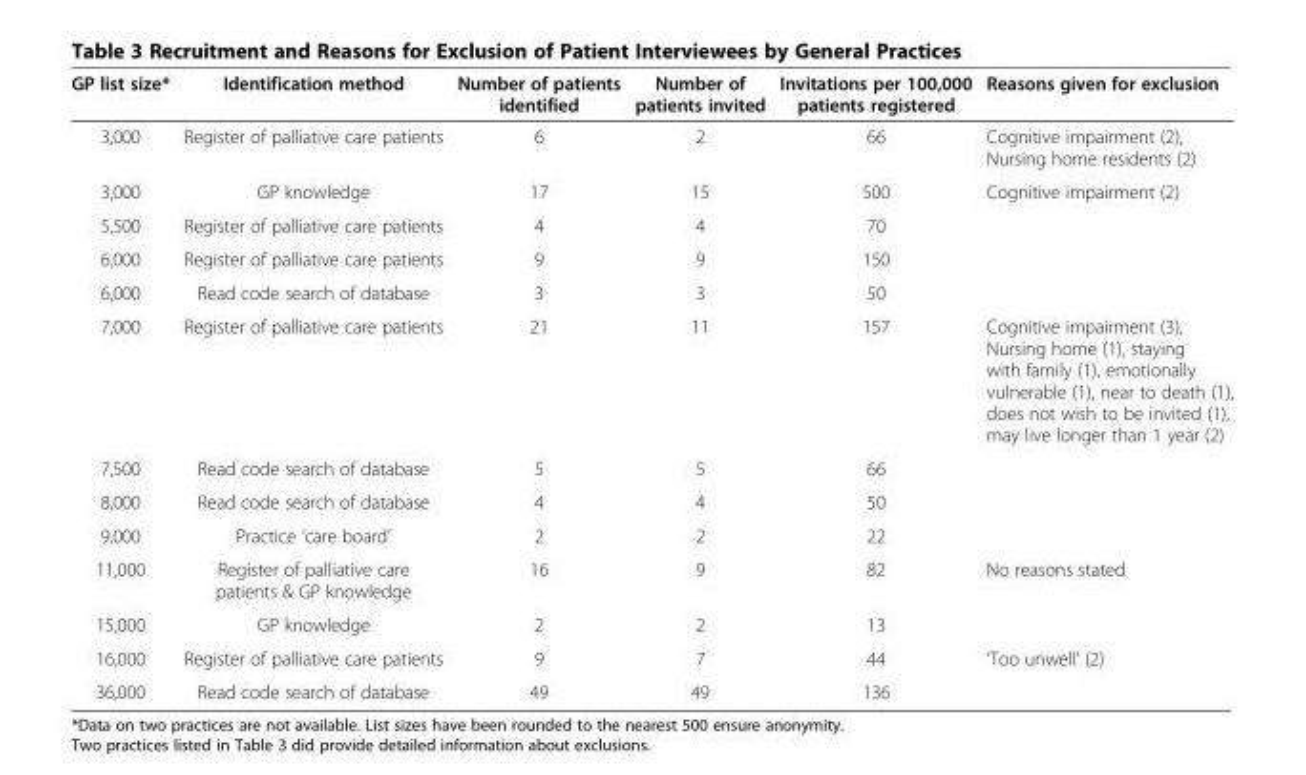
<table><thead><tr><td>GP list size*</td><td>Identification method</td><td>Number of patients identified</td><td>Number of patients invited</td><td>Invitations per 100,000 patients registered</td><td>Reasons given for exclusion</td></tr></thead><tbody><tr><td>3,000</td><td>Register of palliative care patients</td><td>6</td><td>2</td><td>66</td><td>Cognitive impairment (2), Nursing home residents (2)</td></tr><tr><td>3,000</td><td>GP knowledge</td><td>17</td><td>15</td><td>500</td><td>Cognitive impairment (2)</td></tr><tr><td>5,500</td><td>Register of palliative care patients</td><td>4</td><td>4</td><td>70</td><td></td></tr><tr><td>6,000</td><td>Register of palliative care patients</td><td>9</td><td>9</td><td>150</td><td></td></tr><tr><td>6,000</td><td>Read code search of database</td><td>3</td><td>3</td><td>50</td><td></td></tr><tr><td>7,000</td><td>Register of palliative care patients</td><td>21</td><td>11</td><td>157</td><td>Cognitive impairment (3), Nursing home (1), staying with family (1), emotionally vulnerable (1), near to death (1), does not wish to be invited (1), may live longer than 1 year (2)</td></tr><tr><td>7,500</td><td>Read code search of database</td><td>5</td><td>5</td><td>66</td><td></td></tr><tr><td>8,000</td><td>Read code search of database</td><td>4</td><td>4</td><td>50</td><td></td></tr><tr><td>9,000</td><td>Practice ‘care board’</td><td>2</td><td>2</td><td>22</td><td></td></tr><tr><td>11,000</td><td>Register of palliative care patients &amp; GP knowledge</td><td>16</td><td>9</td><td>82</td><td>No reasons stated</td></tr><tr><td>15,000</td><td>GP knowledge</td><td>2</td><td>2</td><td>13</td><td></td></tr><tr><td>16,000</td><td>Register of palliative care patients</td><td>9</td><td>7</td><td>44</td><td>‘Too unwell’ (2)</td></tr><tr><td>36,000</td><td>Read code search of database</td><td>49</td><td>49</td><td>136</td><td></td></tr></tbody></table>